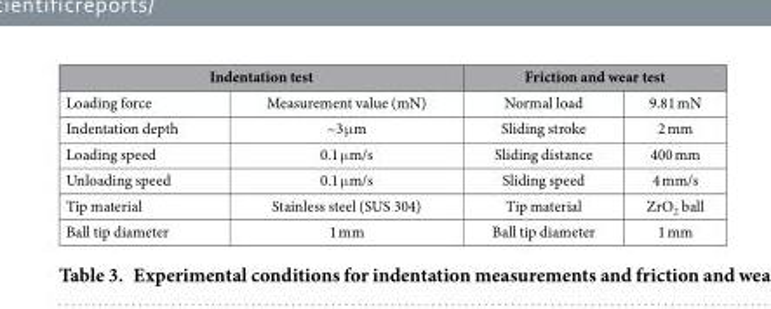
<table><thead><tr><td colspan="2">Indentation test</td><td colspan="2">Friction and wear test</td></tr><tr><td>Loading force</td><td>Measurement value (mN)</td><td>Normal load</td><td>9.81 mN</td></tr></thead><tbody><tr><td>Indentation depth</td><td>~3 μ m</td><td>Sliding stroke</td><td>2 mm</td></tr><tr><td>Loading speed</td><td>0.1 μ m/s</td><td>Sliding distance</td><td>400 mm</td></tr><tr><td>Unloading speed</td><td>0.1 μ m/s</td><td>Sliding speed</td><td>4 mm/s</td></tr><tr><td>Tip material</td><td>Stainless steel (SUS 304)</td><td>Tip material</td><td>ZrO<sub>2</sub> ball</td></tr><tr><td>Ball tip diameter</td><td>1 mm</td><td>Ball tip diameter</td><td>1 mm</td></tr></tbody></table>